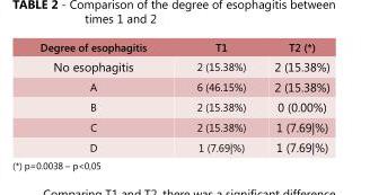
<table><thead><tr><td>Degree of esophagitis</td><td>T1</td><td>T2 (*)</td></tr></thead><tbody><tr><td>No esophagitis</td><td>2 (15.38%)</td><td>2 (15.38%)</td></tr><tr><td>A</td><td>6 (46.15%)</td><td>2 (15.38%)</td></tr><tr><td>B</td><td>2 (15.38%)</td><td>0 (0.00%)</td></tr><tr><td>C</td><td>2 (15.38%)</td><td>1 (7.69|%)</td></tr><tr><td>D</td><td>1 (7.69|%)</td><td>1 (7.69|%)</td></tr></tbody></table>